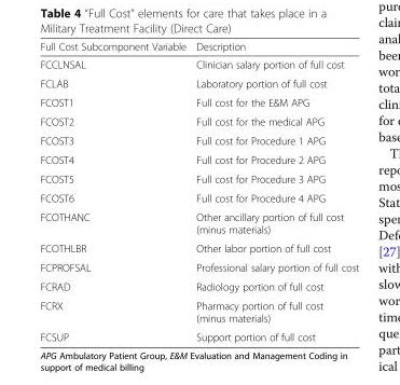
<table><thead><tr><td>Full Cost Subcomponent Variable</td><td>Description</td></tr></thead><tbody><tr><td>FCCLNSAL</td><td>Clinician salary portion of full cost</td></tr><tr><td>FCLAB</td><td>Laboratory portion of full cost</td></tr><tr><td>FCOST1</td><td>Full cost for the E&amp;M APG</td></tr><tr><td>FCOST2</td><td>Full cost for the medical APG</td></tr><tr><td>FCOST3</td><td>Full cost for Procedure 1 APG</td></tr><tr><td>FCOST4</td><td>Full cost for Procedure 2 APG</td></tr><tr><td>FCOST5</td><td>Full cost for Procedure 3 APG</td></tr><tr><td>FCOST6</td><td>Full cost for Procedure 4 APG</td></tr><tr><td>FCOTHANC</td><td>Other ancillary portion of full cost (minus materials)</td></tr><tr><td>FCOTHLBR</td><td>Other labor portion of full cost</td></tr><tr><td>FCPROFSAL</td><td>Professional salary portion of full cost</td></tr><tr><td>FCRAD</td><td>Radiology portion of full cost</td></tr><tr><td>FCRX</td><td>Pharmacy portion of full cost (minus materials)</td></tr><tr><td>FCSUP</td><td>Support portion of full cost</td></tr></tbody></table>